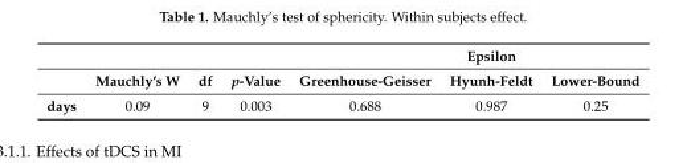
<table><thead><tr><td rowspan="2"></td><td rowspan="2">Mauchly’s W</td><td rowspan="2">df</td><td rowspan="2">p-Value</td><td rowspan="2">Greenhouse-Geisser</td><td rowspan="2">Epsilon Hyunh-Feldt</td><td rowspan="2">Lower-Bound</td></tr><tr></tr></thead><tbody><tr><td>days</td><td>0.09</td><td>9</td><td>0.003</td><td>0.688</td><td>0.987</td><td>0.25</td></tr></tbody></table>